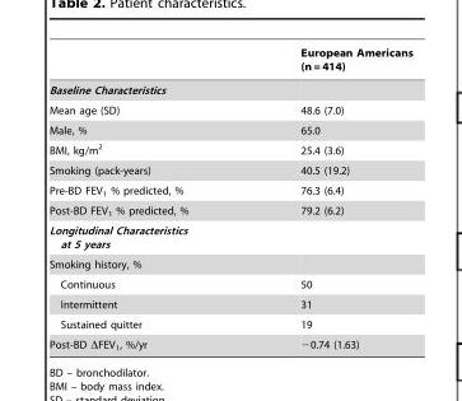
<table><thead><tr><td></td><td>European Americans (n = 414)</td></tr></thead><tbody><tr><td colspan="2">Baseline Characteristics</td></tr><tr><td>Mean age (SD)</td><td>48.6 (7.0)</td></tr><tr><td>Male, %</td><td>65.0</td></tr><tr><td>BMI, kg/m<sup>2</sup></td><td>25.4 (3.6)</td></tr><tr><td>Smoking (pack-years)</td><td>40.5 (19.2)</td></tr><tr><td>Pre-BD FEV<sub>1</sub> % predicted, %</td><td>76.3 (6.4)</td></tr><tr><td>Post-BD FEV<sub>1</sub> % predicted, %</td><td>79.2 (6.2)</td></tr><tr><td colspan="2">Longitudinal Characteristics at 5 years</td></tr><tr><td colspan="2">Smoking history, %</td></tr><tr><td>Continuous</td><td>50</td></tr><tr><td>Intermittent</td><td>31</td></tr><tr><td>Sustained quitter</td><td>19</td></tr><tr><td>Post-BD ΔFEV<sub>1</sub>, %/yr</td><td>−0.74 (1.63)</td></tr></tbody></table>